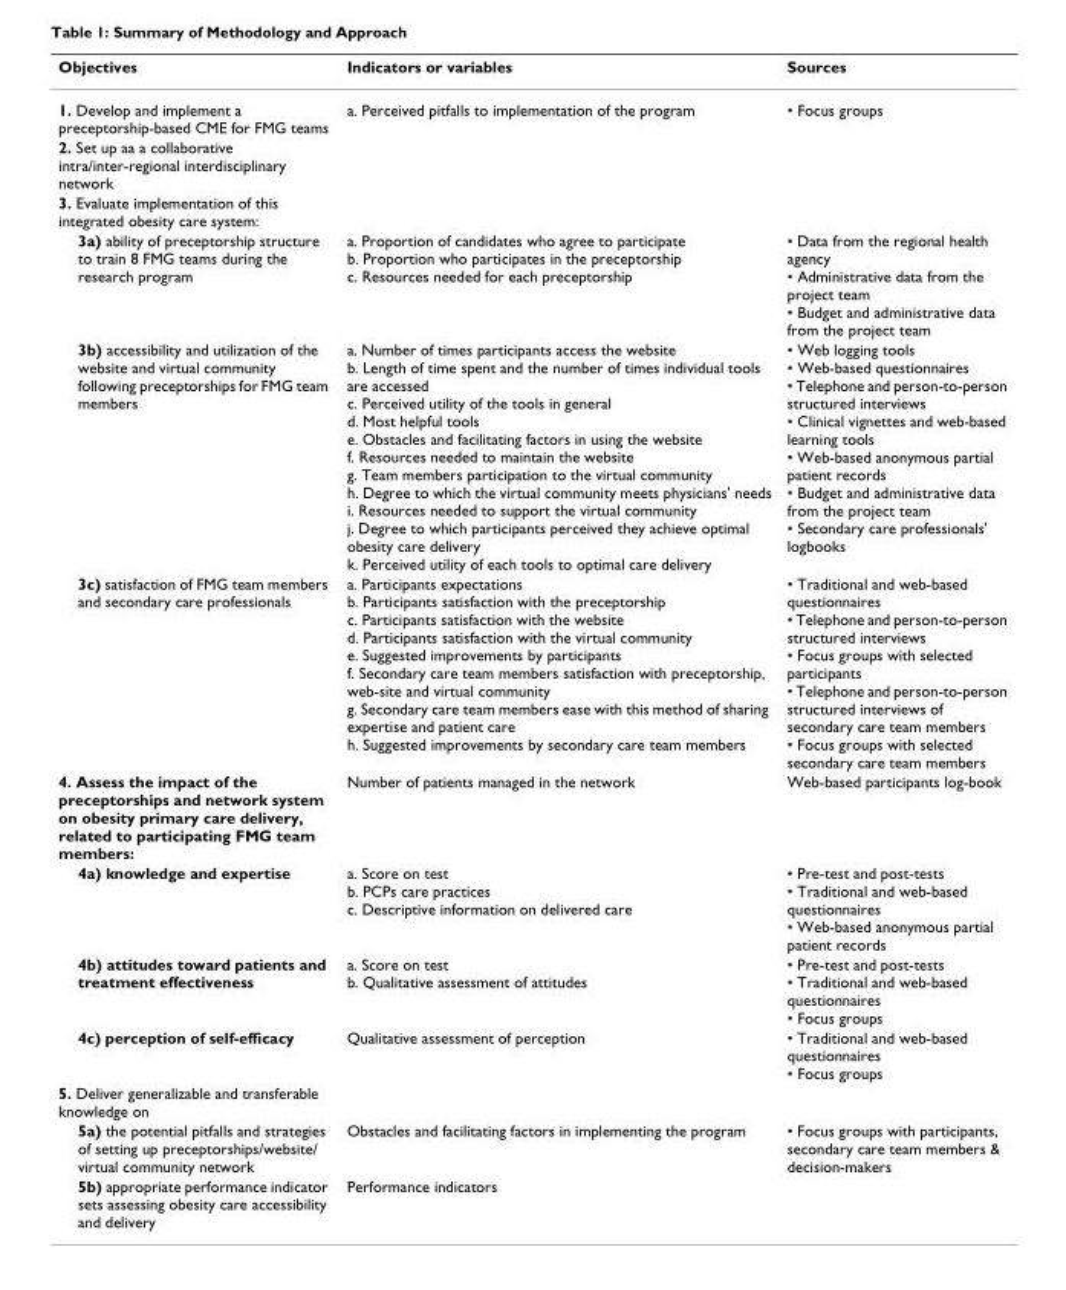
<table><thead><tr><td>Objectives</td><td>Indicators or variables</td><td>Sources</td></tr></thead><tbody><tr><td>1. Develop and implement a preceptorship-based CME for FMG teams</td><td>a. Perceived pitfalls to implementation of the program</td><td>• Focus groups</td></tr><tr><td colspan="3">2. Set up aa a collaborative intra/inter-regional interdisciplinary network</td></tr><tr><td colspan="3">3. Evaluate implementation of this integrated obesity care system:</td></tr><tr><td>3a) ability of preceptorship structure to train 8 FMG teams during the research program</td><td>a. Proportion of candidates who agree to participate b. Proportion who participates in the preceptorship c. Resources needed for each preceptorship</td><td>• Data from the regional health agency • Administrative data from the project team • Budget and administrative data from the project team</td></tr><tr><td>3b) accessibility and utilization of the website and virtual community following preceptorships for FMG team members</td><td>a. Number of times participants access the website b. Length of time spent and the number of times individual tools are accessed c. Perceived utility of the tools in general d. Most helpful tools e. Obstacles and facilitating factors in using the website f. Resources needed to maintain the website g. Team members participation to the virtual community h. Degree to which the virtual community meets physicians&#x27; needs i. Resources needed to support the virtual community j. Degree to which participants perceived they achieve optimal obesity care delivery k. Perceived utility of each tools to optimal care delivery</td><td>• Web logging tools • Web-based questionnaires • Telephone and person-to-person structured interviews • Clinical vignettes and web-based learning tools • Web-based anonymous partial patient records • Budget and administrative data from the project team • Secondary care professionals&#x27; logbooks</td></tr><tr><td>3c) satisfaction of FMG team members and secondary care professionals</td><td>a. Participants expectations b. Participants satisfaction with the preceptorship c. Participants satisfaction with the website d. Participants satisfaction with the virtual community e. Suggested improvements by participants f. Secondary care team members satisfaction with preceptorship, web-site and virtual community g. Secondary care team members ease with this method of sharing expertise and patient care h. Suggested improvements by secondary care team members</td><td>• Traditional and web-based questionnaires • Telephone and person-to-person structured interviews • Focus groups with selected participants • Telephone and person-to-person structured interviews of secondary care team members • Focus groups with selected secondary care team members</td></tr><tr><td>4. Assess the impact of the preceptorships and network system on obesity primary care delivery, related to participating FMG team members:</td><td>Number of patients managed in the network</td><td>Web-based participants log-book</td></tr><tr><td>4a) knowledge and expertise</td><td>a. Score on test b. PCPs care practices c. Descriptive information on delivered care</td><td>• Pre-test and post-tests • Traditional and web-based questionnaires • Web-based anonymous partial patient records</td></tr><tr><td>4b) attitudes toward patients and treatment effectiveness</td><td>a. Score on test b. Qualitative assessment of attitudes</td><td>• Pre-test and post-tests • Traditional and web-based questionnaires • Focus groups</td></tr><tr><td>4c) perception of self-efficacy</td><td>Qualitative assessment of perception</td><td>• Traditional and web-based questionnaires • Focus groups</td></tr><tr><td colspan="3">5. Deliver generalizable and transferable knowledge on</td></tr><tr><td>5a) the potential pitfalls and strategies of setting up preceptorships/website/ virtual community network</td><td>Obstacles and facilitating factors in implementing the program</td><td>• Focus groups with participants, secondary care team members &amp; decision-makers</td></tr><tr><td>5b) appropriate performance indicator sets assessing obesity care accessibility and delivery</td><td>Performance indicators</td><td></td></tr></tbody></table>